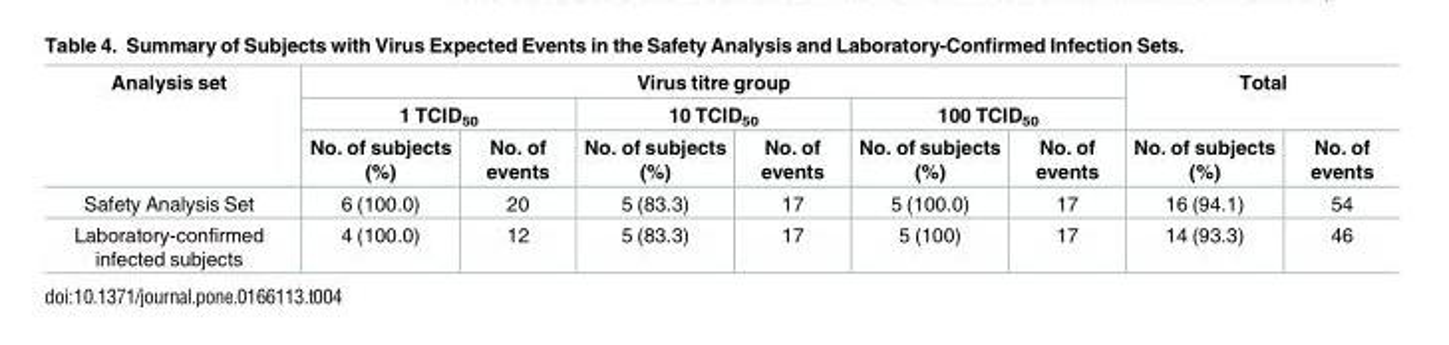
<table><thead><tr><td rowspan="3">Analysis set</td><td colspan="6">Virus titre group</td><td rowspan="2" colspan="2">Total</td></tr><tr><td colspan="2">1 TCID<sub>50</sub></td><td colspan="2">10 TCID<sub>50</sub></td><td colspan="2">100 TCID<sub>50</sub></td></tr><tr><td>No. of subjects (%)</td><td>No. of events</td><td>No. of subjects (%)</td><td>No. of events</td><td>No. of subjects (%)</td><td>No. of events</td><td>No. of subjects (%)</td><td>No. of events</td></tr></thead><tbody><tr><td>Safety Analysis Set</td><td>6 (100.0)</td><td>20</td><td>5 (83.3)</td><td>17</td><td>5 (100.0)</td><td>17</td><td>16 (94.1)</td><td>54</td></tr><tr><td>Laboratory-confirmed infected subjects</td><td>4 (100.0)</td><td>12</td><td>5 (83.3)</td><td>17</td><td>5 (100)</td><td>17</td><td>14 (93.3)</td><td>46</td></tr></tbody></table>